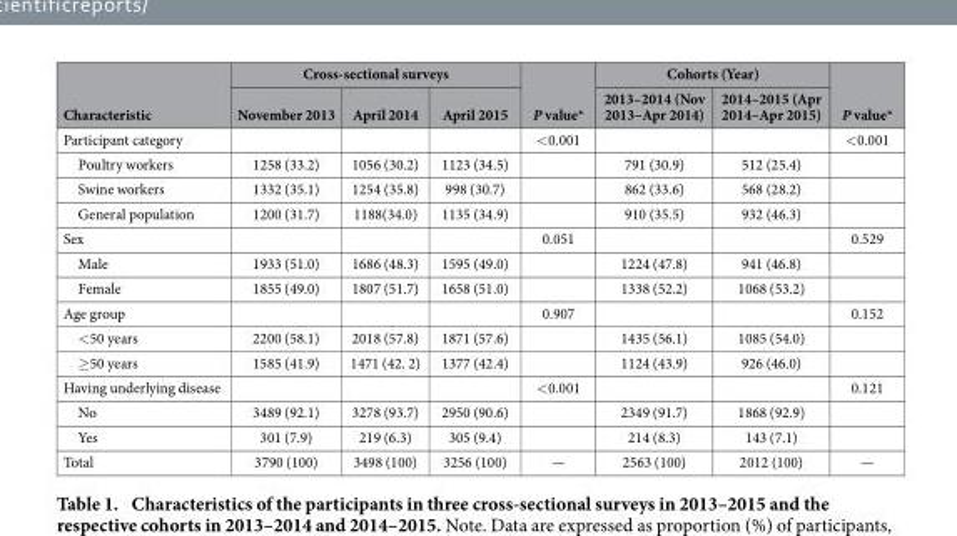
<table><thead><tr><td rowspan="2">Characteristic</td><td colspan="3">Cross-sectional surveys</td><td rowspan="2">P value*</td><td colspan="2">Cohorts (Year)</td><td rowspan="2">P value*</td></tr><tr><td>November 2013</td><td>April 2014</td><td>April 2015</td><td>2013–2014 (Nov 2013–Apr 2014)</td><td>2014–2015 (Apr 2014–Apr 2015)</td></tr></thead><tbody><tr><td>Participant category</td><td></td><td></td><td></td><td>&lt; 0.001</td><td></td><td></td><td>&lt; 0.001</td></tr><tr><td>Poultry workers</td><td>1258 (33.2)</td><td>1056 (30.2)</td><td>1123 (34.5)</td><td></td><td>791 (30.9)</td><td>512 (25.4)</td><td></td></tr><tr><td>Swine workers</td><td>1332 (35.1)</td><td>1254 (35.8)</td><td>998 (30.7)</td><td></td><td>862 (33.6)</td><td>568 (28.2)</td><td></td></tr><tr><td>General population</td><td>1200 (31.7)</td><td>1188(34.0)</td><td>1135 (34.9)</td><td></td><td>910 (35.5)</td><td>932 (46.3)</td><td></td></tr><tr><td>Sex</td><td></td><td></td><td></td><td>0.051</td><td></td><td></td><td>0.529</td></tr><tr><td>Male</td><td>1933 (51.0)</td><td>1686 (48.3)</td><td>1595 (49.0)</td><td></td><td>1224 (47.8)</td><td>941 (46.8)</td><td></td></tr><tr><td>Female</td><td>1855 (49.0)</td><td>1807 (51.7)</td><td>1658 (51.0)</td><td></td><td>1338 (52.2)</td><td>1068 (53.2)</td><td></td></tr><tr><td>Age group</td><td></td><td></td><td></td><td>0.907</td><td></td><td></td><td>0.152</td></tr><tr><td>&lt; 50 years</td><td>2200 (58.1)</td><td>2018 (57.8)</td><td>1871 (57.6)</td><td></td><td>1435 (56.1)</td><td>1085 (54.0)</td><td></td></tr><tr><td>≥ 50 years</td><td>1585 (41.9)</td><td>1471 (42. 2)</td><td>1377 (42.4)</td><td></td><td>1124 (43.9)</td><td>926 (46.0)</td><td></td></tr><tr><td>Having underlying disease</td><td></td><td></td><td></td><td>&lt; 0.001</td><td></td><td></td><td>0.121</td></tr><tr><td>No</td><td>3489 (92.1)</td><td>3278 (93.7)</td><td>2950 (90.6)</td><td></td><td>2349 (91.7)</td><td>1868 (92.9)</td><td></td></tr><tr><td>Yes</td><td>301 (7.9)</td><td>219 (6.3)</td><td>305 (9.4)</td><td></td><td>214 (8.3)</td><td>143 (7.1)</td><td></td></tr><tr><td>Total</td><td>3790 (100)</td><td>3498 (100)</td><td>3256 (100)</td><td>—</td><td>2563 (100)</td><td>2012 (100)</td><td>—</td></tr></tbody></table>